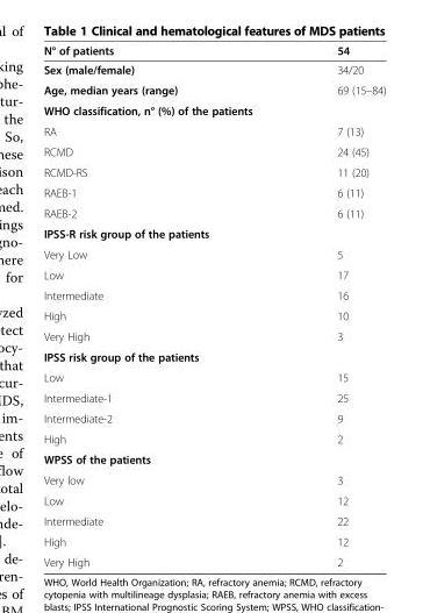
<table><thead><tr><td>N° of patients</td><td>54</td></tr></thead><tbody><tr><td>Sex (male/female)</td><td>34/20</td></tr><tr><td>Age, median years (range)</td><td>69 (15–84)</td></tr><tr><td colspan="2">WHO classification, n° (%) of the patients</td></tr><tr><td>RA</td><td>7 (13)</td></tr><tr><td>RCMD</td><td>24 (45)</td></tr><tr><td>RCMD-RS</td><td>11 (20)</td></tr><tr><td>RAEB-1</td><td>6 (11)</td></tr><tr><td>RAEB-2</td><td>6 (11)</td></tr><tr><td colspan="2">IPSS-R risk group of the patients</td></tr><tr><td>Very Low</td><td>5</td></tr><tr><td>Low</td><td>17</td></tr><tr><td>Intermediate</td><td>16</td></tr><tr><td>High</td><td>10</td></tr><tr><td>Very High</td><td>3</td></tr><tr><td colspan="2">IPSS risk group of the patients</td></tr><tr><td>Low</td><td>15</td></tr><tr><td>Intermediate-1</td><td>25</td></tr><tr><td>Intermediate-2</td><td>9</td></tr><tr><td>High</td><td>2</td></tr><tr><td colspan="2">WPSS of the patients</td></tr><tr><td>Very low</td><td>3</td></tr><tr><td>Low</td><td>12</td></tr><tr><td>Intermediate</td><td>22</td></tr><tr><td>High</td><td>12</td></tr><tr><td>Very High</td><td>2</td></tr></tbody></table>